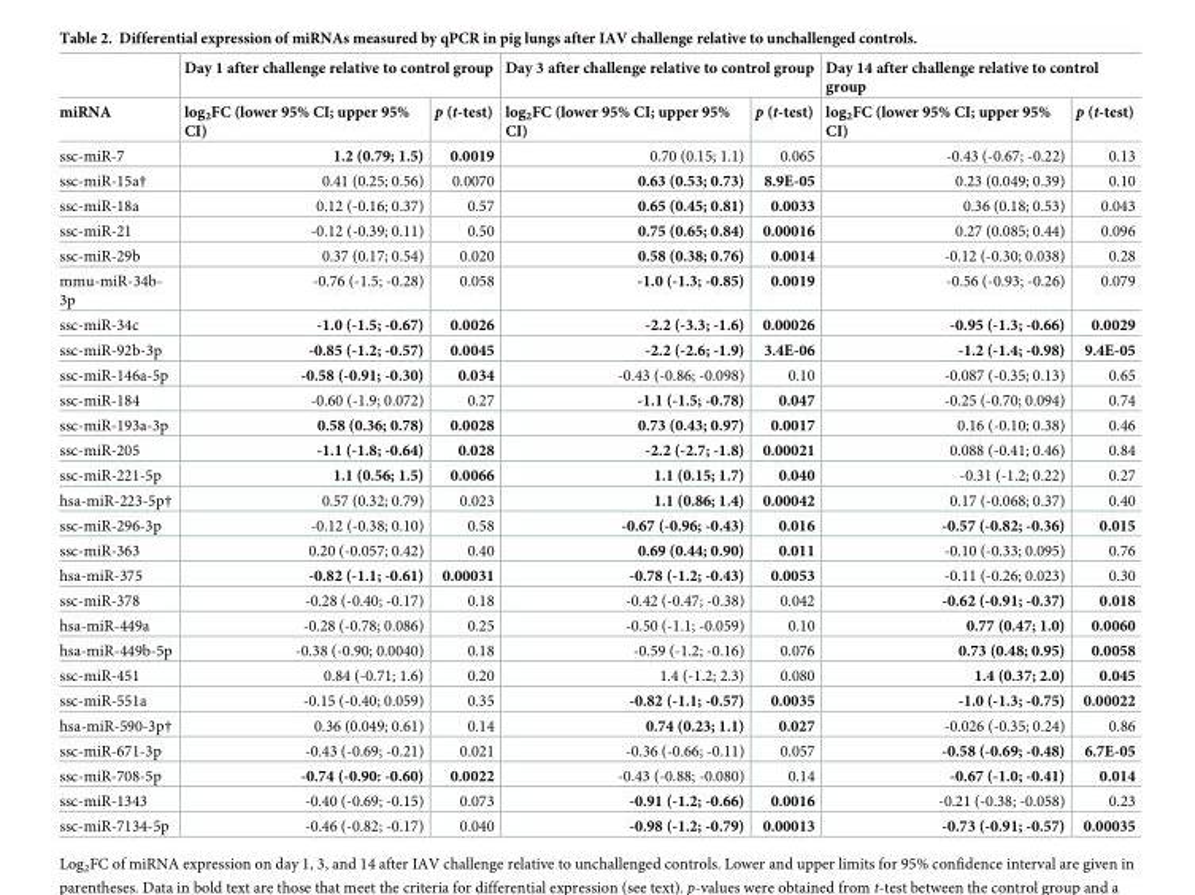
<table><thead><tr><td rowspan="2">miRNA</td><td colspan="2">Day 1 after challenge relative to control group</td><td colspan="2">Day 3 after challenge relative to control group</td><td colspan="2">Day 14 after challenge relative to control group</td></tr><tr><td>log<sub>2</sub>FC (lower 95% CI; upper 95% CI)</td><td>p (t-test)</td><td>log<sub>2</sub>FC (lower 95% CI; upper 95% CI)</td><td>p (t-test)</td><td>log<sub>2</sub>FC (lower 95% CI; upper 95% CI)</td><td>p (t-test)</td></tr></thead><tbody><tr><td>ssc-miR-7</td><td>1.2 (0.79; 1.5)</td><td>0.0019</td><td>0.70 (0.15; 1.1)</td><td>0.065</td><td>-0.43 (-0.67; -0.22)</td><td>0.13</td></tr><tr><td>ssc-miR-15a†</td><td>0.41 (0.25; 0.56)</td><td>0.0070</td><td>0.63 (0.53; 0.73)</td><td>8.9E-05</td><td>0.23 (0.049; 0.39)</td><td>0.10</td></tr><tr><td>ssc-miR-18a</td><td>0.12 (-0.16; 0.37)</td><td>0.57</td><td>0.65 (0.45; 0.81)</td><td>0.0033</td><td>0.36 (0.18; 0.53)</td><td>0.043</td></tr><tr><td>ssc-miR-21</td><td>-0.12 (-0.39; 0.11)</td><td>0.50</td><td>0.75 (0.65; 0.84)</td><td>0.00016</td><td>0.27 (0.085; 0.44)</td><td>0.096</td></tr><tr><td>ssc-miR-29b</td><td>0.37 (0.17; 0.54)</td><td>0.020</td><td>0.58 (0.38; 0.76)</td><td>0.0014</td><td>-0.12 (-0.30; 0.038)</td><td>0.28</td></tr><tr><td>mmu-miR-34b- 3p</td><td>-0.76 (-1.5; -0.28)</td><td>0.058</td><td>-1.0 (-1.3; -0.85)</td><td>0.0019</td><td>-0.56 (-0.93; -0.26)</td><td>0.079</td></tr><tr><td>ssc-miR-34c</td><td>-1.0 (-1.5; -0.67)</td><td>0.0026</td><td>-2.2 (-3.3; -1.6)</td><td>0.00026</td><td>-0.95 (-1.3; -0.66)</td><td>0.0029</td></tr><tr><td>ssc-miR-92b-3p</td><td>-0.85 (-1.2; -0.57)</td><td>0.0045</td><td>-2.2 (-2.6; -1.9)</td><td>3.4E-06</td><td>-1.2 (-1.4; -0.98)</td><td>9.4E-05</td></tr><tr><td>ssc-miR-146a-5p</td><td>-0.58 (-0.91; -0.30)</td><td>0.034</td><td>-0.43 (-0.86; -0.098)</td><td>0.10</td><td>-0.087 (-0.35; 0.13)</td><td>0.65</td></tr><tr><td>ssc-miR-184</td><td>-0.60 (-1.9; 0.072)</td><td>0.27</td><td>-1.1 (-1.5; -0.78)</td><td>0.047</td><td>-0.25 (-0.70; 0.094)</td><td>0.74</td></tr><tr><td>ssc-miR-193a-3p</td><td>0.58 (0.36; 0.78)</td><td>0.0028</td><td>0.73 (0.43; 0.97)</td><td>0.0017</td><td>0.16 (-0.10; 0.38)</td><td>0.46</td></tr><tr><td>ssc-miR-205</td><td>-1.1 (-1.8; -0.64)</td><td>0.028</td><td>-2.2 (-2.7; -1.8)</td><td>0.00021</td><td>0.088 (-0.41; 0.46)</td><td>0.84</td></tr><tr><td>ssc-miR-221-5p</td><td>1.1 (0.56; 1.5)</td><td>0.0066</td><td>1.1 (0.15; 1.7)</td><td>0.040</td><td>-0.31 (-1.2; 0.22)</td><td>0.27</td></tr><tr><td>hsa-miR-223-5p†</td><td>0.57 (0.32; 0.79)</td><td>0.023</td><td>1.1 (0.86; 1.4)</td><td>0.00042</td><td>0.17 (-0.068; 0.37)</td><td>0.40</td></tr><tr><td>ssc-miR-296-3p</td><td>-0.12 (-0.38; 0.10)</td><td>0.58</td><td>-0.67 (-0.96; -0.43)</td><td>0.016</td><td>-0.57 (-0.82; -0.36)</td><td>0.015</td></tr><tr><td>ssc-miR-363</td><td>0.20 (-0.057; 0.42)</td><td>0.40</td><td>0.69 (0.44; 0.90)</td><td>0.011</td><td>-0.10 (-0.33; 0.095)</td><td>0.76</td></tr><tr><td>hsa-miR-375</td><td>-0.82 (-1.1; -0.61)</td><td>0.00031</td><td>-0.78 (-1.2; -0.43)</td><td>0.0053</td><td>-0.11 (-0.26; 0.023)</td><td>0.30</td></tr><tr><td>ssc-miR-378</td><td>-0.28 (-0.40; -0.17)</td><td>0.18</td><td>-0.42 (-0.47; -0.38)</td><td>0.042</td><td>-0.62 (-0.91; -0.37)</td><td>0.018</td></tr><tr><td>hsa-miR-449a</td><td>-0.28 (-0.78; 0.086)</td><td>0.25</td><td>-0.50 (-1.1; -0.059)</td><td>0.10</td><td>0.77 (0.47; 1.0)</td><td>0.0060</td></tr><tr><td>hsa-miR-449b-5p</td><td>-0.38 (-0.90; 0.0040)</td><td>0.18</td><td>-0.59 (-1.2; -0.16)</td><td>0.076</td><td>0.73 (0.48; 0.95)</td><td>0.0058</td></tr><tr><td>ssc-miR-451</td><td>0.84 (-0.71; 1.6)</td><td>0.20</td><td>1.4 (-1.2; 2.3)</td><td>0.080</td><td>1.4 (0.37; 2.0)</td><td>0.045</td></tr><tr><td>ssc-miR-551a</td><td>-0.15 (-0.40; 0.059)</td><td>0.35</td><td>-0.82 (-1.1; -0.57)</td><td>0.0035</td><td>-1.0 (-1.3; -0.75)</td><td>0.00022</td></tr><tr><td>hsa-miR-590-3p†</td><td>0.36 (0.049; 0.61)</td><td>0.14</td><td>0.74 (0.23; 1.1)</td><td>0.027</td><td>-0.026 (-0.35; 0.24)</td><td>0.86</td></tr><tr><td>ssc-miR-671-3p</td><td>-0.43 (-0.69; -0.21)</td><td>0.021</td><td>-0.36 (-0.66; -0.11)</td><td>0.057</td><td>-0.58 (-0.69; -0.48)</td><td>6.7E-05</td></tr><tr><td>ssc-miR-708-5p</td><td>-0.74 (-0.90: -0.60)</td><td>0.0022</td><td>-0.43 (-0.88; -0.080)</td><td>0.14</td><td>-0.67 (-1.0; -0.41)</td><td>0.014</td></tr><tr><td>ssc-miR-1343</td><td>-0.40 (-0.69; -0.15)</td><td>0.073</td><td>-0.91 (-1.2; -0.66)</td><td>0.0016</td><td>-0.21 (-0.38; -0.058)</td><td>0.23</td></tr><tr><td>ssc-miR-7134-5p</td><td>-0.46 (-0.82; -0.17)</td><td>0.040</td><td>-0.98 (-1.2; -0.79)</td><td>0.00013</td><td>-0.73 (-0.91; -0.57)</td><td>0.00035</td></tr></tbody></table>